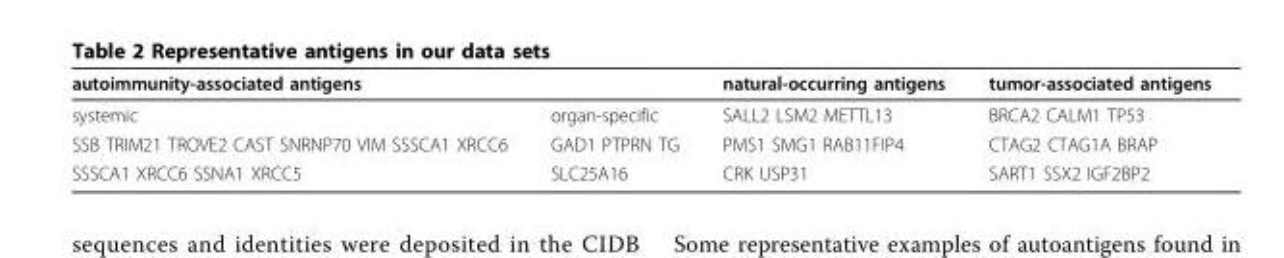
<table><thead><tr><td>autoimmunity-associated antigens</td><td></td><td>natural-occurring antigens</td><td>tumor-associated antigens</td></tr></thead><tbody><tr><td>systemic</td><td>organ-specific</td><td>SALL2 LSM2 METTL13</td><td>BRCA2 CALM1 TP53</td></tr><tr><td>SSB TRIM21 TROVE2 CAST SNRNP70 VIM SSSCA1 XRCC6</td><td>GAD1 PTPRN TG</td><td>PMS1 SMG1 RAB11FIP4</td><td>CTAG2 CTAG1A BRAP</td></tr><tr><td>SSSCA1 XRCC6 SSNA1 XRCC5</td><td>SLC25A16</td><td>CRK USP31</td><td>SART1 SSX2 IGF2BP2</td></tr></tbody></table>